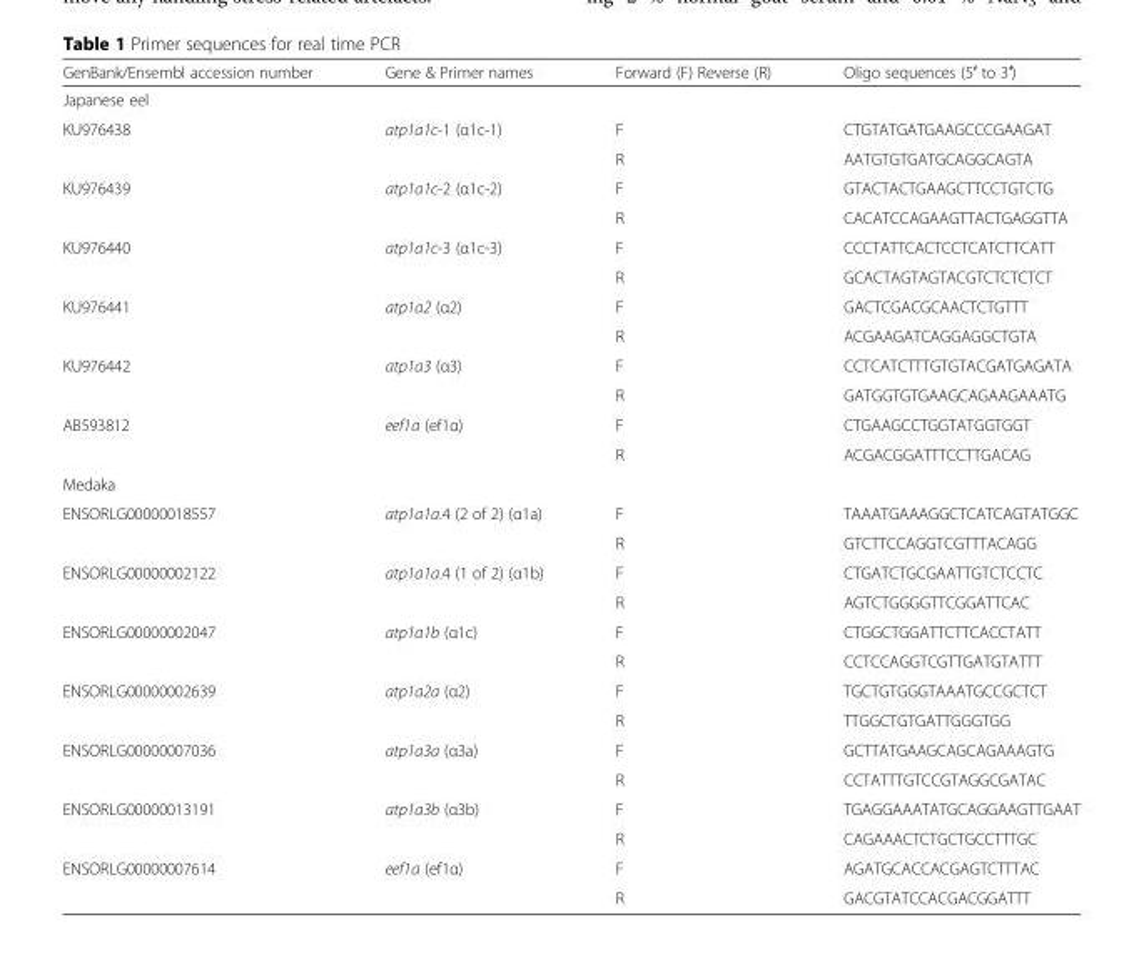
<table><thead><tr><td>GenBank/Ensembl accession number</td><td>Gene &amp; Primer names</td><td>Forward (F) Reverse (R)</td><td>Oligo sequences (5′ to 3′)</td></tr></thead><tbody><tr><td colspan="4">Japanese eel</td></tr><tr><td rowspan="2">KU976438</td><td>atp1a1c-1 (α1c-1)</td><td>F</td><td>CTGTATGATGAAGCCCGAAGAT</td></tr><tr><td></td><td>R</td><td>AATGTGTGATGCAGGCAGTA</td></tr><tr><td rowspan="2">KU976439</td><td>atp1a1c-2 (α1c-2)</td><td>F</td><td>GTACTACTGAAGCTTCCTGTCTG</td></tr><tr><td></td><td>R</td><td>CACATCCAGAAGTTACTGAGGTTA</td></tr><tr><td rowspan="2">KU976440</td><td>atp1a1c-3 (α1c-3)</td><td>F</td><td>CCCTATTCACTCCTCATCTTCATT</td></tr><tr><td></td><td>R</td><td>GCACTAGTAGTACGTCTCTCTCT</td></tr><tr><td rowspan="2">KU976441</td><td>atp1a2 (α2)</td><td>F</td><td>GACTCGACGCAACTCTGTTT</td></tr><tr><td></td><td>R</td><td>ACGAAGATCAGGAGGCTGTA</td></tr><tr><td rowspan="2">KU976442</td><td>atp1a3 (α3)</td><td>F</td><td>CCTCATCTTTGTGTACGATGAGATA</td></tr><tr><td></td><td>R</td><td>GATGGTGTGAAGCAGAAGAAATG</td></tr><tr><td rowspan="2">AB593812</td><td>eef1a (ef1α)</td><td>F</td><td>CTGAAGCCTGGTATGGTGGT</td></tr><tr><td></td><td>R</td><td>ACGACGGATTTCCTTGACAG</td></tr><tr><td colspan="4">Medaka</td></tr><tr><td rowspan="2">ENSORLG00000018557</td><td>atp1a1a.4 (2 of 2) (α1a)</td><td>F</td><td>TAAATGAAAGGCTCATCAGTATGGC</td></tr><tr><td></td><td>R</td><td>GTCTTCCAGGTCGTTTACAGG</td></tr><tr><td rowspan="2">ENSORLG00000002122</td><td>atp1a1a.4 (1 of 2) (α1b)</td><td>F</td><td>CTGATCTGCGAATTGTCTCCTC</td></tr><tr><td></td><td>R</td><td>AGTCTGGGGTTCGGATTCAC</td></tr><tr><td rowspan="2">ENSORLG00000002047</td><td>atp1a1b (α1c)</td><td>F</td><td>CTGGCTGGATTCTTCACCTATT</td></tr><tr><td></td><td>R</td><td>CCTCCAGGTCGTTGATGTATTT</td></tr><tr><td rowspan="2">ENSORLG00000002639</td><td>atp1a2a (α2)</td><td>F</td><td>TGCTGTGGGTAAATGCCGCTCT</td></tr><tr><td></td><td>R</td><td>TTGGCTGTGATTGGGTGG</td></tr><tr><td rowspan="2">ENSORLG00000007036</td><td>atp1a3a (α3a)</td><td>F</td><td>GCTTATGAAGCAGCAGAAAGTG</td></tr><tr><td></td><td>R</td><td>CCTATTTGTCCGTAGGCGATAC</td></tr><tr><td rowspan="2">ENSORLG00000013191</td><td>atp1a3b (α3b)</td><td>F</td><td>TGAGGAAATATGCAGGAAGTTGAAT</td></tr><tr><td></td><td>R</td><td>CAGAAACTCTGCTGCCTTTGC</td></tr><tr><td rowspan="2">ENSORLG00000007614</td><td>eef1a (ef1α)</td><td>F</td><td>AGATGCACCACGAGTCTTTAC</td></tr><tr><td></td><td>R</td><td>GACGTATCCACGACGGATTT</td></tr></tbody></table>